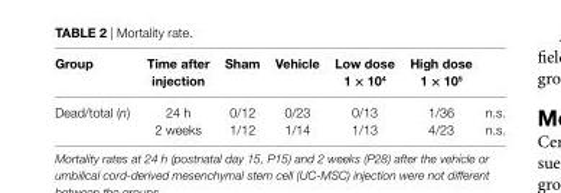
<table><thead><tr><td>group</td><td>Time after injection</td><td>sham</td><td>Vehicle</td><td>low dose 1 × 10<sup>4</sup></td><td>high dose 1 × 10<sup>5</sup></td><td></td></tr></thead><tbody><tr><td rowspan="2">Dead/total (n)</td><td>24 h</td><td>0/12</td><td>0/23</td><td>0/13</td><td>1/36</td><td>n.s.</td></tr><tr><td>2 weeks</td><td>1/12</td><td>1/14</td><td>1/13</td><td>4/23</td><td>n.s.</td></tr></tbody></table>